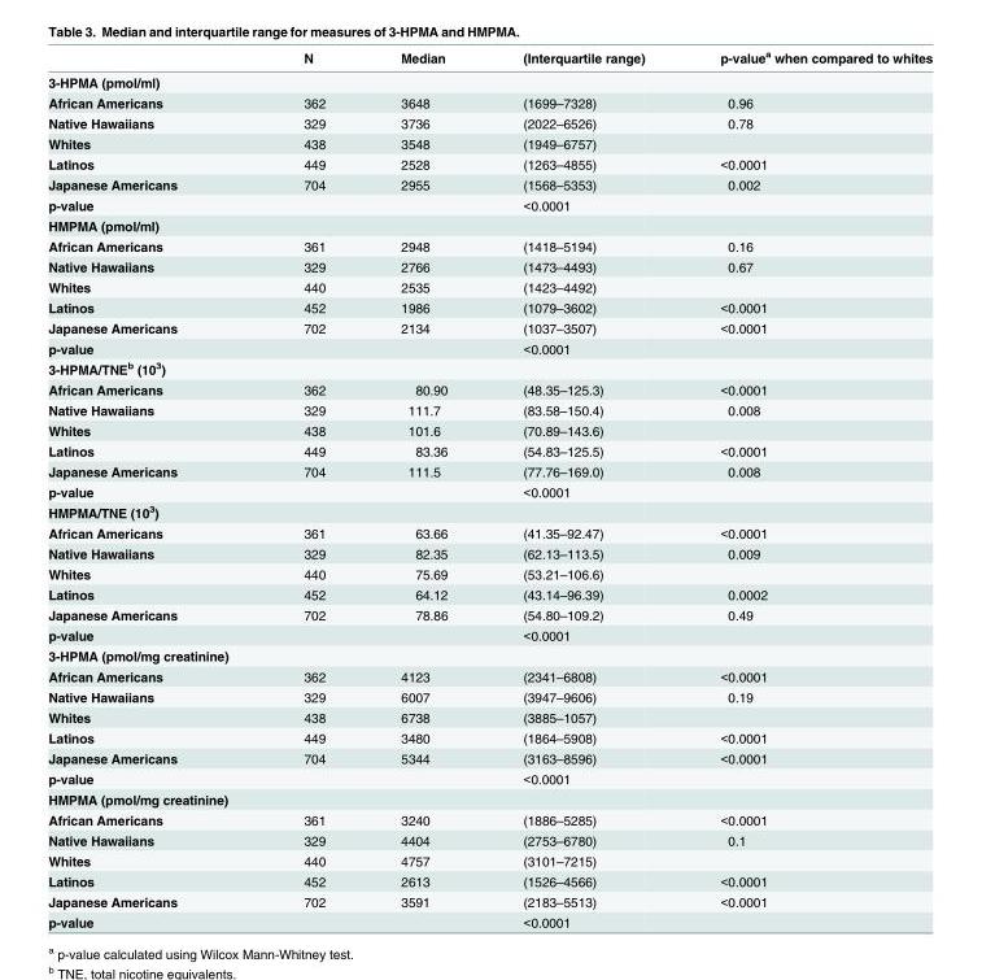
<table><thead><tr><td></td><td>N</td><td>Median</td><td>(Interquartile range)</td><td>p-value<sup>a</sup> when compared to whites</td></tr></thead><tbody><tr><td colspan="5">3-HPMA (pmol/ml)</td></tr><tr><td>African Americans</td><td>362</td><td>3648</td><td>(1699–7328)</td><td>0.96</td></tr><tr><td>Native Hawaiians</td><td>329</td><td>3736</td><td>(2022–6526)</td><td>0.78</td></tr><tr><td>Whites</td><td>438</td><td>3548</td><td>(1949–6757)</td><td></td></tr><tr><td>Latinos</td><td>449</td><td>2528</td><td>(1263–4855)</td><td>&lt;0.0001</td></tr><tr><td>Japanese Americans</td><td>704</td><td>2955</td><td>(1568–5353)</td><td>0.002</td></tr><tr><td>p-value</td><td></td><td></td><td>&lt;0.0001</td><td></td></tr><tr><td colspan="5">HMPMA (pmol/ml)</td></tr><tr><td>African Americans</td><td>361</td><td>2948</td><td>(1418–5194)</td><td>0.16</td></tr><tr><td>Native Hawaiians</td><td>329</td><td>2766</td><td>(1473–4493)</td><td>0.67</td></tr><tr><td>Whites</td><td>440</td><td>2535</td><td>(1423–4492)</td><td></td></tr><tr><td>Latinos</td><td>452</td><td>1986</td><td>(1079–3602)</td><td>&lt;0.0001</td></tr><tr><td>Japanese Americans</td><td>702</td><td>2134</td><td>(1037–3507)</td><td>&lt;0.0001</td></tr><tr><td>p-value</td><td></td><td></td><td>&lt;0.0001</td><td></td></tr><tr><td colspan="5">3-HPMA/TNE<sup>b</sup> (10<sup>3</sup>)</td></tr><tr><td>African Americans</td><td>362</td><td>80.90</td><td>(48.35–125.3)</td><td>&lt;0.0001</td></tr><tr><td>Native Hawaiians</td><td>329</td><td>111.7</td><td>(83.58–150.4)</td><td>0.008</td></tr><tr><td>Whites</td><td>438</td><td>101.6</td><td>(70.89–143.6)</td><td></td></tr><tr><td>Latinos</td><td>449</td><td>83.36</td><td>(54.83–125.5)</td><td>&lt;0.0001</td></tr><tr><td>Japanese Americans</td><td>704</td><td>111.5</td><td>(77.76–169.0)</td><td>0.008</td></tr><tr><td>p-value</td><td></td><td></td><td>&lt;0.0001</td><td></td></tr><tr><td colspan="5">HMPMA/TNE (10<sup>3</sup>)</td></tr><tr><td>African Americans</td><td>361</td><td>63.66</td><td>(41.35–92.47)</td><td>&lt;0.0001</td></tr><tr><td>Native Hawaiians</td><td>329</td><td>82.35</td><td>(62.13–113.5)</td><td>0.009</td></tr><tr><td>Whites</td><td>440</td><td>75.69</td><td>(53.21–106.6)</td><td></td></tr><tr><td>Latinos</td><td>452</td><td>64.12</td><td>(43.14–96.39)</td><td>0.0002</td></tr><tr><td>Japanese Americans</td><td>702</td><td>78.86</td><td>(54.80–109.2)</td><td>0.49</td></tr><tr><td>p-value</td><td></td><td></td><td>&lt;0.0001</td><td></td></tr><tr><td colspan="5">3-HPMA (pmol/mg creatinine)</td></tr><tr><td>African Americans</td><td>362</td><td>4123</td><td>(2341–6808)</td><td>&lt;0.0001</td></tr><tr><td>Native Hawaiians</td><td>329</td><td>6007</td><td>(3947–9606)</td><td>0.19</td></tr><tr><td>Whites</td><td>438</td><td>6738</td><td>(3885–1057)</td><td></td></tr><tr><td>Latinos</td><td>449</td><td>3480</td><td>(1864–5908)</td><td>&lt;0.0001</td></tr><tr><td>Japanese Americans</td><td>704</td><td>5344</td><td>(3163–8596)</td><td>&lt;0.0001</td></tr><tr><td>p-value</td><td></td><td></td><td>&lt;0.0001</td><td></td></tr><tr><td colspan="5">HMPMA (pmol/mg creatinine)</td></tr><tr><td>African Americans</td><td>361</td><td>3240</td><td>(1886–5285)</td><td>&lt;0.0001</td></tr><tr><td>Native Hawaiians</td><td>329</td><td>4404</td><td>(2753–6780)</td><td>0.1</td></tr><tr><td>Whites</td><td>440</td><td>4757</td><td>(3101–7215)</td><td></td></tr><tr><td>Latinos</td><td>452</td><td>2613</td><td>(1526–4566)</td><td>&lt;0.0001</td></tr><tr><td>Japanese Americans</td><td>702</td><td>3591</td><td>(2183–5513)</td><td>&lt;0.0001</td></tr><tr><td>p-value</td><td></td><td></td><td>&lt;0.0001</td><td></td></tr></tbody></table>